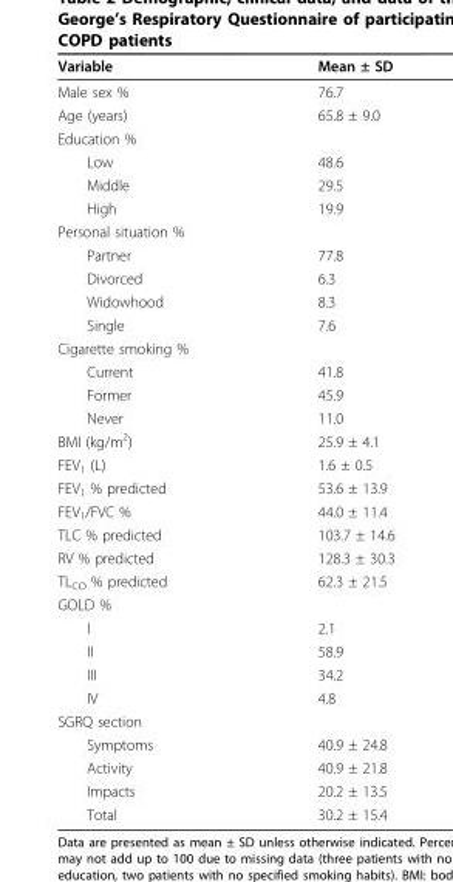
<table><thead><tr><td>Variable</td><td>Mean ± SD</td></tr></thead><tbody><tr><td>Male sex %</td><td>76.7</td></tr><tr><td>Age (years)</td><td>65.8 ± 9.0</td></tr><tr><td colspan="2">Education %</td></tr><tr><td>Low</td><td>48.6</td></tr><tr><td>Middle</td><td>29.5</td></tr><tr><td>High</td><td>19.9</td></tr><tr><td colspan="2">Personal situation %</td></tr><tr><td>Partner</td><td>77.8</td></tr><tr><td>Divorced</td><td>6.3</td></tr><tr><td>Widowhood</td><td>8.3</td></tr><tr><td>Single</td><td>7.6</td></tr><tr><td colspan="2">Cigarette smoking %</td></tr><tr><td>Current</td><td>41.8</td></tr><tr><td>Former</td><td>45.9</td></tr><tr><td>Never</td><td>11.0</td></tr><tr><td>BMI (kg/m<sup>2</sup>)</td><td>25.9 ± 4.1</td></tr><tr><td>FEV<sub>1</sub> (L)</td><td>1.6 ± 0.5</td></tr><tr><td>FEV<sub>1</sub> % predicted</td><td>53.6 ± 13.9</td></tr><tr><td>FEV<sub>1</sub>/FVC %</td><td>44.0 ± 11.4</td></tr><tr><td>TLC % predicted</td><td>103.7 ± 14.6</td></tr><tr><td>RV % predicted</td><td>128.3 ± 30.3</td></tr><tr><td>TL<sub>CO</sub> % predicted</td><td>62.3 ± 21.5</td></tr><tr><td colspan="2">GOLD %</td></tr><tr><td>I</td><td>2.1</td></tr><tr><td>II</td><td>58.9</td></tr><tr><td>III</td><td>34.2</td></tr><tr><td>IV</td><td>4.8</td></tr><tr><td colspan="2">SGRQ section</td></tr><tr><td>Symptoms</td><td>40.9 ± 24.8</td></tr><tr><td>Activity</td><td>40.9 ± 21.8</td></tr><tr><td>Impacts</td><td>20.2 ± 13.5</td></tr><tr><td>Total</td><td>30.2 ± 15.4</td></tr></tbody></table>